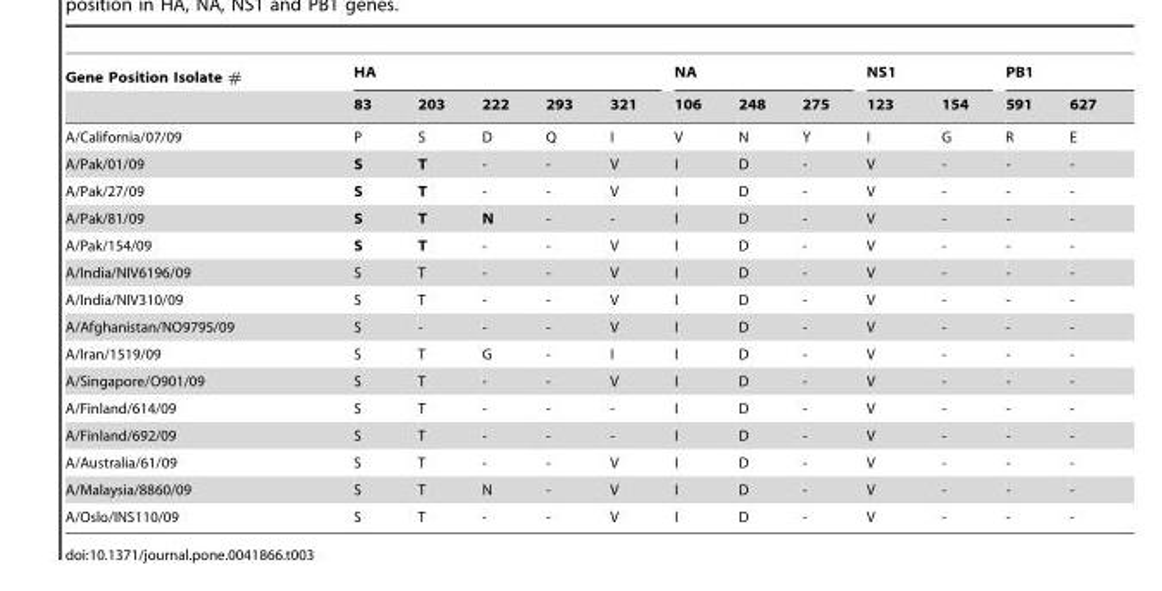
<table><thead><tr><td rowspan="2">Gene Position Isolate #</td><td colspan="5">HA</td><td colspan="3">NA</td><td colspan="2">NS1</td><td colspan="2">PB1</td></tr><tr><td>83</td><td>203</td><td>222</td><td>293</td><td>321</td><td>106</td><td>248</td><td>275</td><td>123</td><td>154</td><td>591</td><td>627</td></tr></thead><tbody><tr><td>A/California/07/09</td><td>P</td><td>S</td><td>D</td><td>Q</td><td>I</td><td>V</td><td>N</td><td>Y</td><td>I</td><td>G</td><td>R</td><td>E</td></tr><tr><td>A/Pak/01/09</td><td>S</td><td>T</td><td>-</td><td>-</td><td>V</td><td>I</td><td>D</td><td>-</td><td>V</td><td>-</td><td>-</td><td>-</td></tr><tr><td>A/Pak/27/09</td><td>S</td><td>T</td><td>-</td><td>-</td><td>V</td><td>I</td><td>D</td><td>-</td><td>V</td><td>-</td><td>-</td><td>-</td></tr><tr><td>A/Pak/81/09</td><td>S</td><td>T</td><td>N</td><td>-</td><td>-</td><td>I</td><td>D</td><td>-</td><td>V</td><td>-</td><td>-</td><td>-</td></tr><tr><td>A/Pak/154/09</td><td>S</td><td>T</td><td>-</td><td>-</td><td>V</td><td>I</td><td>D</td><td>-</td><td>V</td><td>-</td><td>-</td><td>-</td></tr><tr><td>A/India/NIV6196/09</td><td>S</td><td>T</td><td>-</td><td>-</td><td>V</td><td>I</td><td>D</td><td>-</td><td>V</td><td>-</td><td>-</td><td>-</td></tr><tr><td>A/India/NIV310/09</td><td>S</td><td>T</td><td>-</td><td>-</td><td>V</td><td>I</td><td>D</td><td>-</td><td>V</td><td>-</td><td>-</td><td>-</td></tr><tr><td>A/Afghanistan/NO9795/09</td><td>S</td><td>-</td><td>-</td><td>-</td><td>V</td><td>I</td><td>D</td><td>-</td><td>V</td><td>-</td><td>-</td><td>-</td></tr><tr><td>A/Iran/1519/09</td><td>S</td><td>T</td><td>G</td><td>-</td><td>I</td><td>I</td><td>D</td><td>-</td><td>V</td><td>-</td><td>-</td><td>-</td></tr><tr><td>A/Singapore/O901/09</td><td>S</td><td>T</td><td>-</td><td>-</td><td>V</td><td>I</td><td>D</td><td>-</td><td>V</td><td>-</td><td>-</td><td>-</td></tr><tr><td>A/Finland/614/09</td><td>S</td><td>T</td><td>-</td><td>-</td><td>-</td><td>I</td><td>D</td><td>-</td><td>V</td><td>-</td><td>-</td><td>-</td></tr><tr><td>A/Finland/692/09</td><td>S</td><td>T</td><td>-</td><td>-</td><td>-</td><td>I</td><td>D</td><td>-</td><td>V</td><td>-</td><td>-</td><td>-</td></tr><tr><td>A/Australia/61/09</td><td>S</td><td>T</td><td>-</td><td>-</td><td>V</td><td>I</td><td>D</td><td>-</td><td>V</td><td>-</td><td>-</td><td>-</td></tr><tr><td>A/Malaysia/8860/09</td><td>S</td><td>T</td><td>N</td><td>-</td><td>V</td><td>I</td><td>D</td><td>-</td><td>V</td><td>-</td><td>-</td><td>-</td></tr><tr><td>A/Oslo/INS110/09</td><td>S</td><td>T</td><td>-</td><td>-</td><td>V</td><td>I</td><td>D</td><td>-</td><td>V</td><td>-</td><td>-</td><td>-</td></tr></tbody></table>